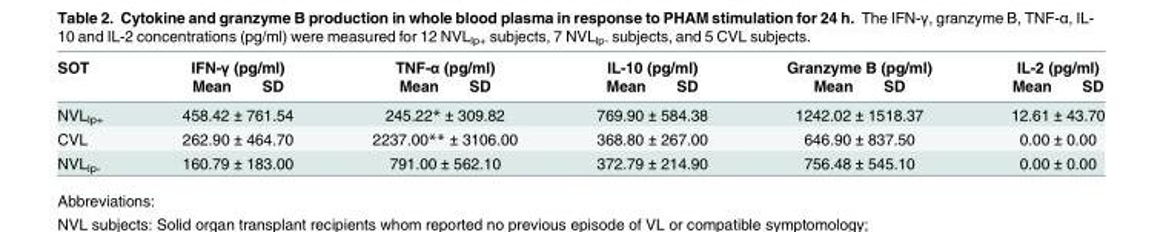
<table><thead><tr><td rowspan="2">SOT</td><td rowspan="2">IFN-γ (pg/ml) Mean SD</td><td rowspan="2">TNF-α (pg/ml) Mean SD</td><td rowspan="2">IL-10 (pg/ml) Mean SD</td><td rowspan="2">Granzyme B (pg/ml) Mean SD</td><td rowspan="2">IL-2 (pg/ml) Mean SD</td></tr><tr></tr></thead><tbody><tr><td>NVL<sub>lp+</sub></td><td>458.42 ± 761.54</td><td>245.22* ± 309.82</td><td>769.90 ± 584.38</td><td>1242.02 ± 1518.37</td><td>12.61 ± 43.70</td></tr><tr><td>CVL</td><td>262.90 ± 464.70</td><td>2237.00** ± 3106.00</td><td>368.80 ± 267.00</td><td>646.90 ± 837.50</td><td>0.00 ± 0.00</td></tr><tr><td>NVL<sub>lp-</sub></td><td>160.79 ± 183.00</td><td>791.00 ± 562.10</td><td>372.79 ± 214.90</td><td>756.48 ± 545.10</td><td>0.00 ± 0.00</td></tr></tbody></table>